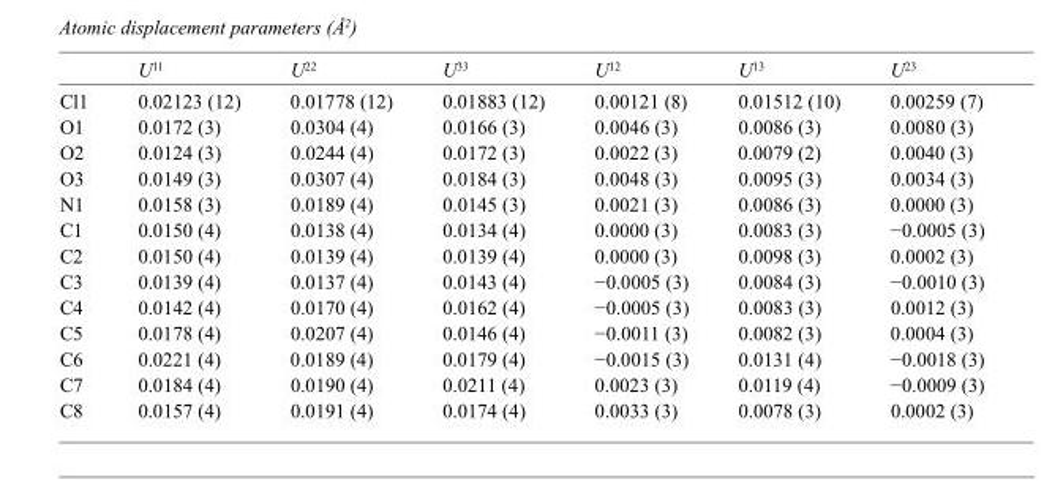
<table><thead><tr><td></td><td>U<sup>11</sup></td><td>U<sup>22</sup></td><td>U<sup>33</sup></td><td>U<sup>12</sup></td><td>U<sup>13</sup></td><td>U<sup>23</sup></td></tr></thead><tbody><tr><td>Cl1</td><td>0.02123 (12)</td><td>0.01778 (12)</td><td>0.01883 (12)</td><td>0.00121 (8)</td><td>0.01512 (10)</td><td>0.00259 (7)</td></tr><tr><td>O1</td><td>0.0172 (3)</td><td>0.0304 (4)</td><td>0.0166 (3)</td><td>0.0046 (3)</td><td>0.0086 (3)</td><td>0.0080 (3)</td></tr><tr><td>O2</td><td>0.0124 (3)</td><td>0.0244 (4)</td><td>0.0172 (3)</td><td>0.0022 (3)</td><td>0.0079 (2)</td><td>0.0040 (3)</td></tr><tr><td>O3</td><td>0.0149 (3)</td><td>0.0307 (4)</td><td>0.0184 (3)</td><td>0.0048 (3)</td><td>0.0095 (3)</td><td>0.0034 (3)</td></tr><tr><td>N1</td><td>0.0158 (3)</td><td>0.0189 (4)</td><td>0.0145 (3)</td><td>0.0021 (3)</td><td>0.0086 (3)</td><td>0.0000 (3)</td></tr><tr><td>C1</td><td>0.0150 (4)</td><td>0.0138 (4)</td><td>0.0134 (4)</td><td>0.0000 (3)</td><td>0.0083 (3)</td><td>−0.0005 (3)</td></tr><tr><td>C2</td><td>0.0150 (4)</td><td>0.0139 (4)</td><td>0.0139 (4)</td><td>0.0000 (3)</td><td>0.0098 (3)</td><td>0.0002 (3)</td></tr><tr><td>C3</td><td>0.0139 (4)</td><td>0.0137 (4)</td><td>0.0143 (4)</td><td>−0.0005 (3)</td><td>0.0084 (3)</td><td>−0.0010 (3)</td></tr><tr><td>C4</td><td>0.0142 (4)</td><td>0.0170 (4)</td><td>0.0162 (4)</td><td>−0.0005 (3)</td><td>0.0083 (3)</td><td>0.0012 (3)</td></tr><tr><td>C5</td><td>0.0178 (4)</td><td>0.0207 (4)</td><td>0.0146 (4)</td><td>−0.0011 (3)</td><td>0.0082 (3)</td><td>0.0004 (3)</td></tr><tr><td>C6</td><td>0.0221 (4)</td><td>0.0189 (4)</td><td>0.0179 (4)</td><td>−0.0015 (3)</td><td>0.0131 (4)</td><td>−0.0018 (3)</td></tr><tr><td>C7</td><td>0.0184 (4)</td><td>0.0190 (4)</td><td>0.0211 (4)</td><td>0.0023 (3)</td><td>0.0119 (4)</td><td>−0.0009 (3)</td></tr><tr><td>C8</td><td>0.0157 (4)</td><td>0.0191 (4)</td><td>0.0174 (4)</td><td>0.0033 (3)</td><td>0.0078 (3)</td><td>0.0002 (3)</td></tr></tbody></table>